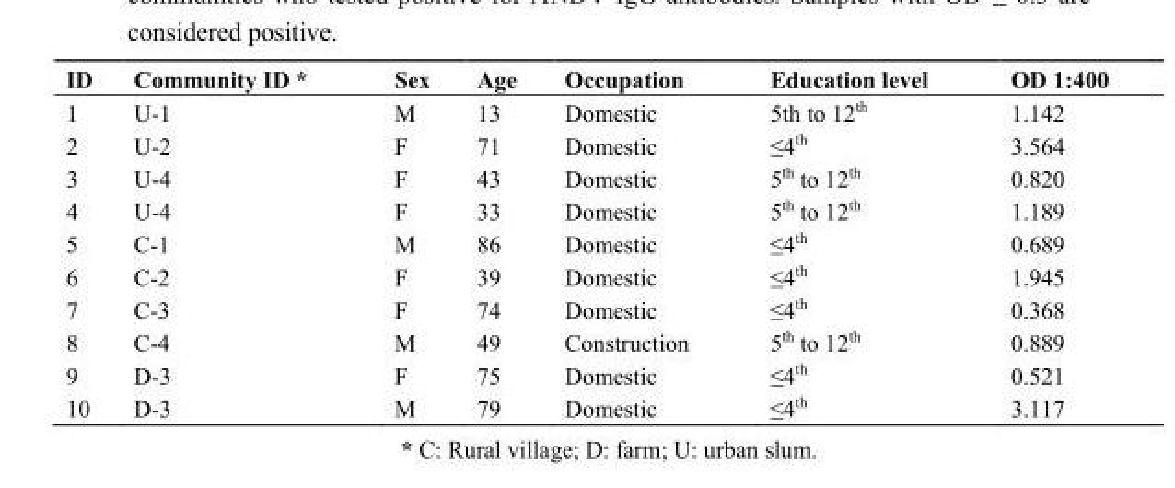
<table><thead><tr><td>ID</td><td>Community ID *</td><td>Sex</td><td>Age</td><td>Occupation</td><td>Education level</td><td>OD 1:400</td></tr></thead><tbody><tr><td>1</td><td>U-1</td><td>M</td><td>13</td><td>Domestic</td><td>5th to 12<sup>th</sup></td><td>1.142</td></tr><tr><td>2</td><td>U-2</td><td>F</td><td>71</td><td>Domestic</td><td>≤4<sup>th</sup></td><td>3.564</td></tr><tr><td>3</td><td>U-4</td><td>F</td><td>43</td><td>Domestic</td><td>5<sup>th</sup> to 12<sup>th</sup></td><td>0.820</td></tr><tr><td>4</td><td>U-4</td><td>F</td><td>33</td><td>Domestic</td><td>5<sup>th</sup> to 12<sup>th</sup></td><td>1.189</td></tr><tr><td>5</td><td>C-1</td><td>M</td><td>86</td><td>Domestic</td><td>≤4<sup>th</sup></td><td>0.689</td></tr><tr><td>6</td><td>C-2</td><td>F</td><td>39</td><td>Domestic</td><td>≤4<sup>th</sup></td><td>1.945</td></tr><tr><td>7</td><td>C-3</td><td>F</td><td>74</td><td>Domestic</td><td>≤4<sup>th</sup></td><td>0.368</td></tr><tr><td>8</td><td>C-4</td><td>M</td><td>49</td><td>Construction</td><td>5<sup>th</sup> to 12<sup>th</sup></td><td>0.889</td></tr><tr><td>9</td><td>D-3</td><td>F</td><td>75</td><td>Domestic</td><td>≤4<sup>th</sup></td><td>0.521</td></tr><tr><td>10</td><td>D-3</td><td>M</td><td>79</td><td>Domestic</td><td>≤4<sup>th</sup></td><td>3.117</td></tr></tbody></table>